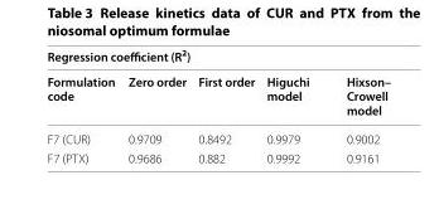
<table><thead><tr><td colspan="5">Regression coefficient (R<sup>2</sup>)</td></tr><tr><td>Formulation code</td><td>Zero order</td><td>First order</td><td>Higuchi model</td><td>Hixson– Crowell model</td></tr></thead><tbody><tr><td>F7 (CUR)</td><td>0.9709</td><td>0.8492</td><td>0.9979</td><td>0.9002</td></tr><tr><td>F7 (PTX)</td><td>0.9686</td><td>0.882</td><td>0.9992</td><td>0.9161</td></tr></tbody></table>